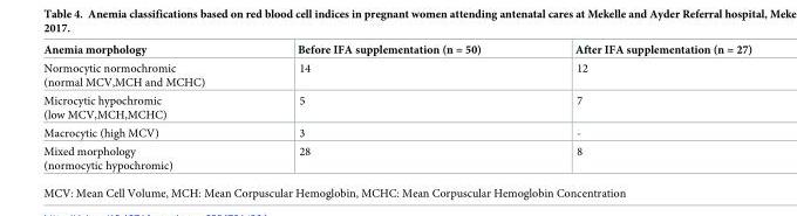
<table><thead><tr><td>Anemia morphology</td><td>Before IFA supplementation (n = 50)</td><td>After IFA supplementation (n = 27)</td></tr></thead><tbody><tr><td>Normocytic normochromic (normal MCV,MCH and MCHC)</td><td>14</td><td>12</td></tr><tr><td>Microcytic hypochromic (low MCV,MCH,MCHC)</td><td>5</td><td>7</td></tr><tr><td>Macrocytic (high MCV)</td><td>3</td><td>-</td></tr><tr><td>Mixed morphology (normocytic hypochromic)</td><td>28</td><td>8</td></tr></tbody></table>